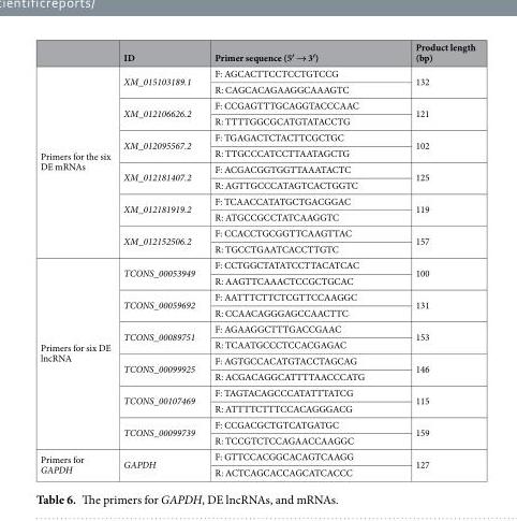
<table><thead><tr><td></td><td>ID</td><td>Primer sequence (5′ → 3′)</td><td>Product length (bp)</td></tr></thead><tbody><tr><td rowspan="12">Primers for the six DE mRNAs</td><td rowspan="2">XM_015103189.1</td><td>F: AGCACTTCCTCCTGTCCG</td><td rowspan="2">132</td></tr><tr><td>R: CAGCACAGAAGGCAAAGTC</td></tr><tr><td rowspan="2">XM_012106626.2</td><td>F: CCGAGTTTGCAGGTACCCAAC</td><td rowspan="2">121</td></tr><tr><td>R: TTTTGGCGCATGTATACCTG</td></tr><tr><td rowspan="2">XM_012095567.2</td><td>F: TGAGACTCTACTTCGCTGC</td><td rowspan="2">102</td></tr><tr><td>R: TTGCCCATCCTTAATAGCTG</td></tr><tr><td rowspan="2">XM_012181407.2</td><td>F: ACGACGGTGGTTAAATACTC</td><td rowspan="2">125</td></tr><tr><td>R: AGTTGCCCATAGTCACTGGTC</td></tr><tr><td rowspan="2">XM_012181919.2</td><td>F: TCAACCATATGCTGACGGAC</td><td rowspan="2">119</td></tr><tr><td>R: ATGCCGCCTATCAAGGTC</td></tr><tr><td rowspan="2">XM_012152506.2</td><td>F: CCACCTGCGGTTCAAGTTAC</td><td rowspan="2">157</td></tr><tr><td>R: TGCCTGAATCACCTTGTC</td></tr><tr><td rowspan="12">Primers for six DE lncRNA</td><td rowspan="2">TCONS_00053949</td><td>F: CCTGGCTATATCCTTACATCAC</td><td rowspan="2">100</td></tr><tr><td>R: AAGTTCAAACTCCGCTGCAC</td></tr><tr><td rowspan="2">TCONS_00059692</td><td>F: AATTTCTTCTCGTTCCAAGGC</td><td rowspan="2">131</td></tr><tr><td>R: CCAACAGGGAGCCAACTTC</td></tr><tr><td rowspan="2">TCONS_00089751</td><td>F: AGAAGGCTTTGACCGAAC</td><td rowspan="2">153</td></tr><tr><td>R: TCAATGCCCTCCACGAGAC</td></tr><tr><td rowspan="2">TCONS_00099925</td><td>F: AGTGCCACATGTACCTAGCAG</td><td rowspan="2">146</td></tr><tr><td>R: ACGACAGGCATTTTAACCCATG</td></tr><tr><td rowspan="2">TCONS_00107469</td><td>F: TAGTACAGCCCATATTTATCG</td><td rowspan="2">115</td></tr><tr><td>R: ATTTTCTTTCCACAGGGACG</td></tr><tr><td rowspan="2">TCONS_00099739</td><td>F: CCGACGCTGTCATGATGC</td><td rowspan="2">159</td></tr><tr><td>R: TCCGTCTCCAGAACCAAGGC</td></tr><tr><td rowspan="2">Primers for GAPDH</td><td rowspan="2">GAPDH</td><td>F: GTTCCACGGCACAGTCAAGG</td><td rowspan="2">127</td></tr><tr><td>R: ACTCAGCACCAGCATCACCC</td></tr></tbody></table>